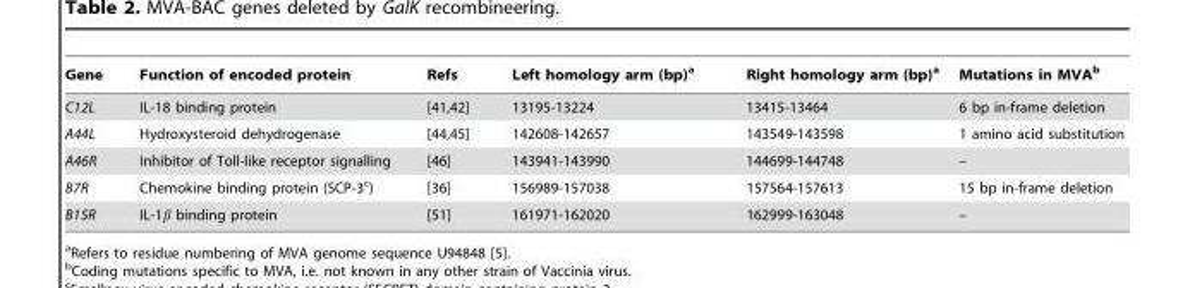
<table><thead><tr><td>Gene</td><td>Function of encoded protein</td><td>Refs</td><td>Left homology arm (bp)<sup>a</sup></td><td>Right homology arm (bp)<sup>a</sup></td><td>Mutations in MVA<sup>b</sup></td></tr></thead><tbody><tr><td>C12L</td><td>IL-18 binding protein</td><td>[41,42]</td><td>13195-13224</td><td>13415-13464</td><td>6 bp in-frame deletion</td></tr><tr><td>A44L</td><td>Hydroxysteroid dehydrogenase</td><td>[44,45]</td><td>142608-142657</td><td>143549-143598</td><td>1 amino acid substitution</td></tr><tr><td>A46R</td><td>Inhibitor of Toll-like receptor signalling</td><td>[46]</td><td>143941-143990</td><td>144699-144748</td><td>–</td></tr><tr><td>B7R</td><td>Chemokine binding protein (SCP-3<sup>c</sup>)</td><td>[36]</td><td>156989-157038</td><td>157564-157613</td><td>15 bp in-frame deletion</td></tr><tr><td>B15R</td><td>IL-1β binding protein</td><td>[51]</td><td>161971-162020</td><td>162999-163048</td><td>–</td></tr></tbody></table>